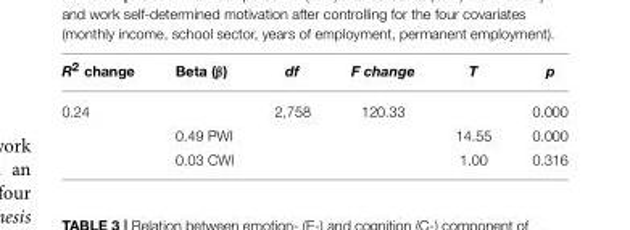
<table><thead><tr><td>R<sup>2</sup> change</td><td>Beta (β)</td><td>df</td><td>F change</td><td>T</td><td>p</td></tr></thead><tbody><tr><td rowspan="3">0.24</td><td></td><td>2,758</td><td>120.33</td><td></td><td>0.000</td></tr><tr><td>0.49 PWI</td><td></td><td></td><td>14.55</td><td>0.000</td></tr><tr><td>0.03 CWI</td><td></td><td></td><td>1.00</td><td>0.316</td></tr></tbody></table>